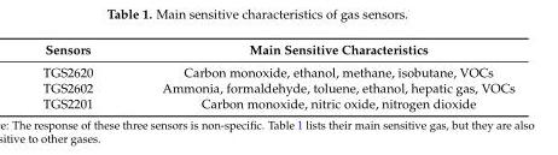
<table><thead><tr><td>Sensors</td><td>Main Sensitive Characteristics</td></tr></thead><tbody><tr><td>TGS2620</td><td>Carbon monoxide, ethanol, methane, isobutane, VOCs</td></tr><tr><td>TGS2602</td><td>Ammonia, formaldehyde, toluene, ethanol, hepatic gas, VOCs</td></tr><tr><td>TGS2201</td><td>Carbon monoxide, nitric oxide, nitrogen dioxide</td></tr></tbody></table>